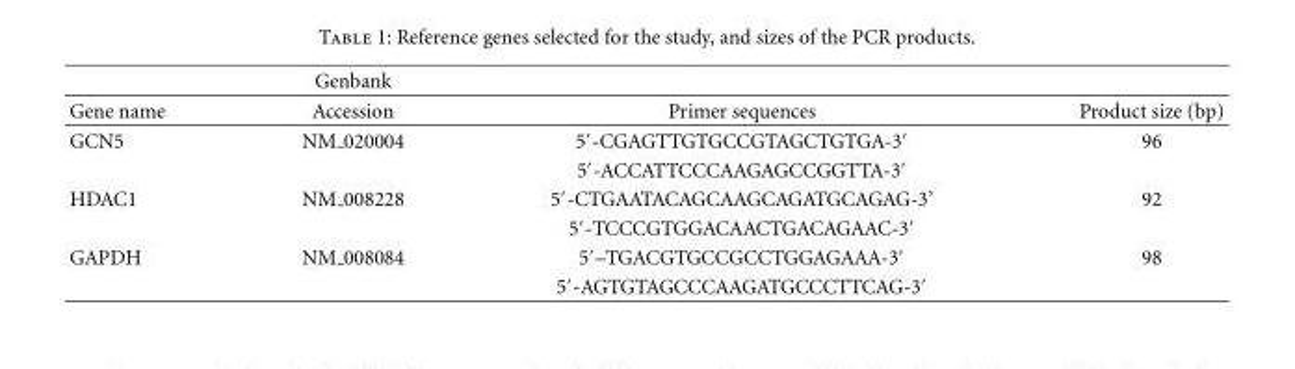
<table><thead><tr><td rowspan="2">Gene name</td><td rowspan="2">Genbank Accession</td><td rowspan="2">Primer sequences</td><td rowspan="2">Product size (bp)</td></tr><tr></tr></thead><tbody><tr><td rowspan="2">GCN5</td><td>NM 020004</td><td>5′-CGAGTTGTGCCGTAGCTGTGA-3′</td><td>96</td></tr><tr><td></td><td>5′-ACCATTCCCAAGAGCCGGTTA-3′</td><td></td></tr><tr><td rowspan="2">HDAC1</td><td>NM 008228</td><td>5′-CTGAATACAGCAAGCAGATGCAGAG-3’</td><td>92</td></tr><tr><td></td><td>5′-TCCCGTGGACAACTGACAGAAC-3′</td><td></td></tr><tr><td rowspan="2">GAPDH</td><td>NM 008084</td><td>5′–TGACGTGCCGCCTGGAGAAA-3′</td><td>98</td></tr><tr><td></td><td>5′-AGTGTAGCCCAAGATGCCCTTCAG-3′</td><td></td></tr></tbody></table>